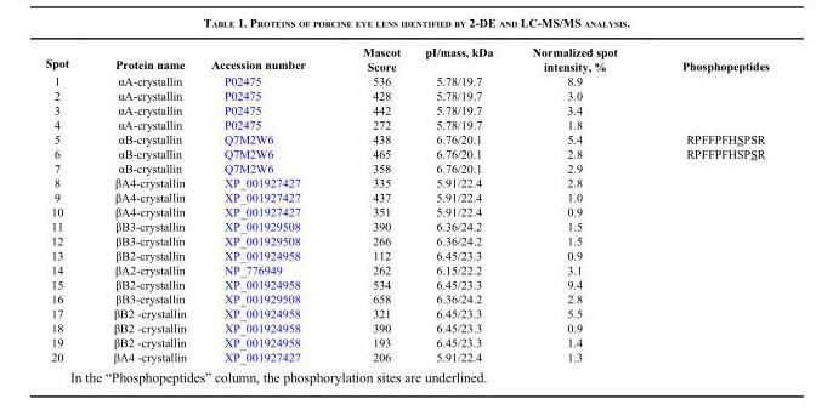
<table><thead><tr><td>Spot</td><td>Protein name</td><td>Accession number</td><td>Mascot Score</td><td>pI/mass, kDa</td><td>Normalized spot intensity, %</td><td>Phosphopeptides</td></tr></thead><tbody><tr><td>1</td><td>αA-crystallin</td><td>P02475</td><td>536</td><td>5.78/19.7</td><td>8.9</td><td></td></tr><tr><td>2</td><td>αA-crystallin</td><td>P02475</td><td>428</td><td>5.78/19.7</td><td>3.0</td><td></td></tr><tr><td>3</td><td>αA-crystallin</td><td>P02475</td><td>442</td><td>5.78/19.7</td><td>3.4</td><td></td></tr><tr><td>4</td><td>αA-crystallin</td><td>P02475</td><td>272</td><td>5.78/19.7</td><td>1.8</td><td></td></tr><tr><td>5</td><td>αB-crystallin</td><td>Q7M2W6</td><td>438</td><td>6.76/20.1</td><td>5.4</td><td>RPFFPFHSPSR</td></tr><tr><td>6</td><td>αB-crystallin</td><td>Q7M2W6</td><td>465</td><td>6.76/20.1</td><td>2.8</td><td>RPFFPFHSPSR</td></tr><tr><td>7</td><td>αB-crystallin</td><td>Q7M2W6</td><td>358</td><td>6.76/20.1</td><td>2.9</td><td></td></tr><tr><td>8</td><td>βA4-crystallin</td><td>XP_001927427</td><td>335</td><td>5.91/22.4</td><td>2.8</td><td></td></tr><tr><td>9</td><td>βA4-crystallin</td><td>XP_001927427</td><td>437</td><td>5.91/22.4</td><td>1.0</td><td></td></tr><tr><td>10</td><td>βA4-crystallin</td><td>XP_001927427</td><td>351</td><td>5.91/22.4</td><td>0.9</td><td></td></tr><tr><td>11</td><td>βB3-crystallin</td><td>XP_001929508</td><td>390</td><td>6.36/24.2</td><td>1.5</td><td></td></tr><tr><td>12</td><td>βB3-crystallin</td><td>XP_001929508</td><td>266</td><td>6.36/24.2</td><td>1.5</td><td></td></tr><tr><td>13</td><td>βB2-crystallin</td><td>XP_001924958</td><td>112</td><td>6.45/23.3</td><td>0.9</td><td></td></tr><tr><td>14</td><td>βA2-crystallin</td><td>NP_776949</td><td>262</td><td>6.15/22.2</td><td>3.1</td><td></td></tr><tr><td>15</td><td>βB2-crystallin</td><td>XP_001924958</td><td>534</td><td>6.45/23.3</td><td>9.4</td><td></td></tr><tr><td>16</td><td>βB3-crystallin</td><td>XP_001929508</td><td>658</td><td>6.36/24.2</td><td>2.8</td><td></td></tr><tr><td>17</td><td>βB2 -crystallin</td><td>XP_001924958</td><td>321</td><td>6.45/23.3</td><td>5.5</td><td></td></tr><tr><td>18</td><td>βB2 -crystallin</td><td>XP_001924958</td><td>390</td><td>6.45/23.3</td><td>0.9</td><td></td></tr><tr><td>19</td><td>βB2 -crystallin</td><td>XP_001924958</td><td>193</td><td>6.45/23.3</td><td>1.4</td><td></td></tr><tr><td>20</td><td>βA4 -crystallin</td><td>XP_001927427</td><td>206</td><td>5.91/22.4</td><td>1.3</td><td></td></tr></tbody></table>